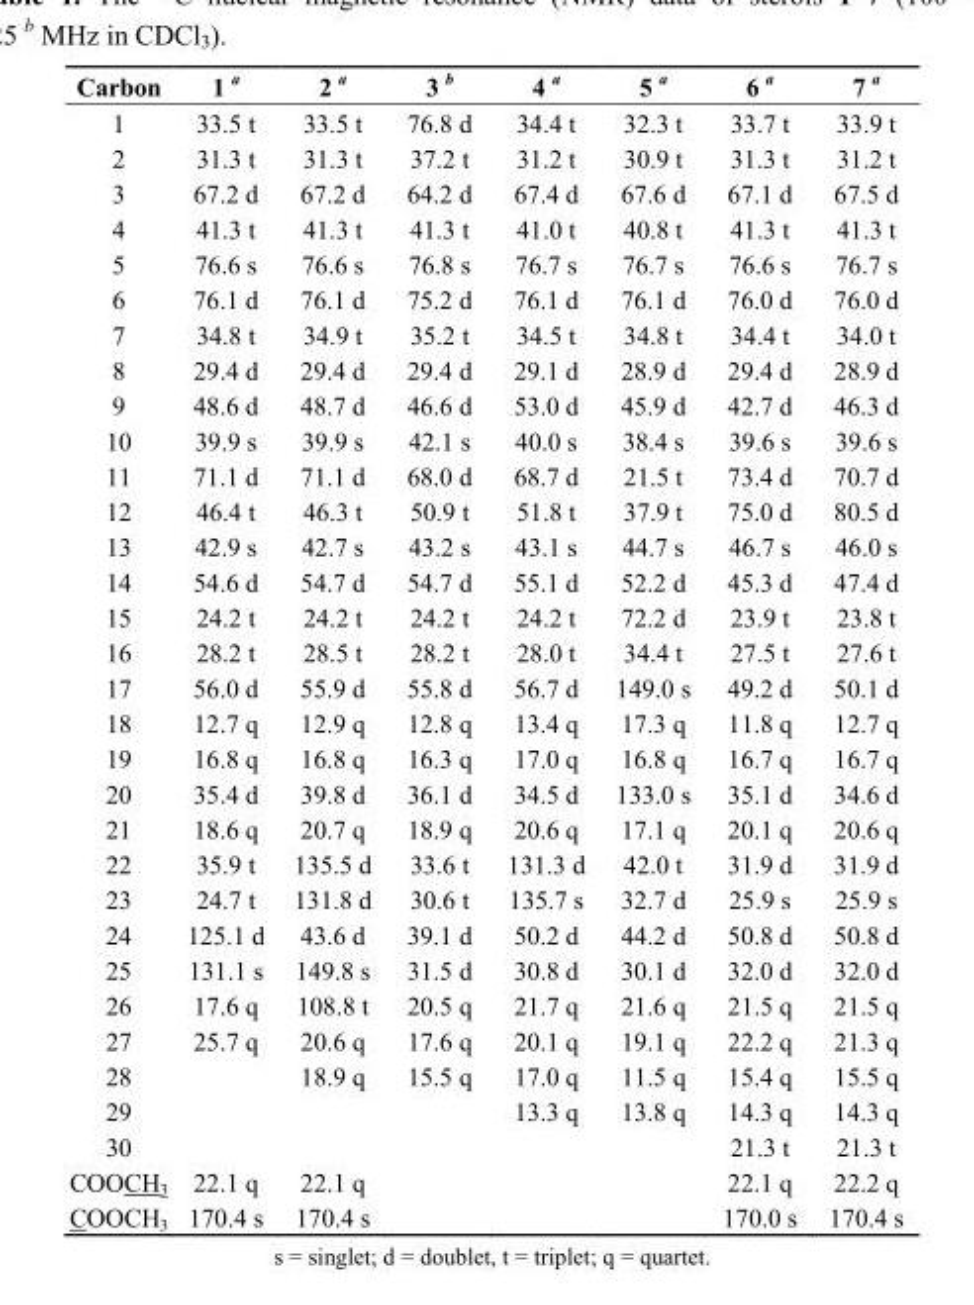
<table><thead><tr><td>Carbon</td><td>1 <sup>a</sup></td><td>2 <sup>a</sup></td><td>3 <sup>b</sup></td><td>4 <sup>a</sup></td><td>5 <sup>a</sup></td><td>6 <sup>a</sup></td><td>7 <sup>a</sup></td></tr></thead><tbody><tr><td>1</td><td>33.5 t</td><td>33.5 t</td><td>76.8 d</td><td>34.4 t</td><td>32.3 t</td><td>33.7 t</td><td>33.9 t</td></tr><tr><td>2</td><td>31.3 t</td><td>31.3 t</td><td>37.2 t</td><td>31.2 t</td><td>30.9 t</td><td>31.3 t</td><td>31.2 t</td></tr><tr><td>3</td><td>67.2 d</td><td>67.2 d</td><td>64.2 d</td><td>67.4 d</td><td>67.6 d</td><td>67.1 d</td><td>67.5 d</td></tr><tr><td>4</td><td>41.3 t</td><td>41.3 t</td><td>41.3 t</td><td>41.0 t</td><td>40.8 t</td><td>41.3 t</td><td>41.3 t</td></tr><tr><td>5</td><td>76.6 s</td><td>76.6 s</td><td>76.8 s</td><td>76.7 s</td><td>76.7 s</td><td>76.6 s</td><td>76.7 s</td></tr><tr><td>6</td><td>76.1 d</td><td>76.1 d</td><td>75.2 d</td><td>76.1 d</td><td>76.1 d</td><td>76.0 d</td><td>76.0 d</td></tr><tr><td>7</td><td>34.8 t</td><td>34.9 t</td><td>35.2 t</td><td>34.5 t</td><td>34.8 t</td><td>34.4 t</td><td>34.0 t</td></tr><tr><td>8</td><td>29.4 d</td><td>29.4 d</td><td>29.4 d</td><td>29.1 d</td><td>28.9 d</td><td>29.4 d</td><td>28.9 d</td></tr><tr><td>9</td><td>48.6 d</td><td>48.7 d</td><td>46.6 d</td><td>53.0 d</td><td>45.9 d</td><td>42.7 d</td><td>46.3 d</td></tr><tr><td>10</td><td>39.9 s</td><td>39.9 s</td><td>42.1 s</td><td>40.0 s</td><td>38.4 s</td><td>39.6 s</td><td>39.6 s</td></tr><tr><td>11</td><td>71.1 d</td><td>71.1 d</td><td>68.0 d</td><td>68.7 d</td><td>21.5 t</td><td>73.4 d</td><td>70.7 d</td></tr><tr><td>12</td><td>46.4 t</td><td>46.3 t</td><td>50.9 t</td><td>51.8 t</td><td>37.9 t</td><td>75.0 d</td><td>80.5 d</td></tr><tr><td>13</td><td>42.9 s</td><td>42.7 s</td><td>43.2 s</td><td>43.1 s</td><td>44.7 s</td><td>46.7 s</td><td>46.0 s</td></tr><tr><td>14</td><td>54.6 d</td><td>54.7 d</td><td>54.7 d</td><td>55.1 d</td><td>52.2 d</td><td>45.3 d</td><td>47.4 d</td></tr><tr><td>15</td><td>24.2 t</td><td>24.2 t</td><td>24.2 t</td><td>24.2 t</td><td>72.2 d</td><td>23.9 t</td><td>23.8 t</td></tr><tr><td>16</td><td>28.2 t</td><td>28.5 t</td><td>28.2 t</td><td>28.0 t</td><td>34.4 t</td><td>27.5 t</td><td>27.6 t</td></tr><tr><td>17</td><td>56.0 d</td><td>55.9 d</td><td>55.8 d</td><td>56.7 d</td><td>149.0 s</td><td>49.2 d</td><td>50.1 d</td></tr><tr><td>18</td><td>12.7 q</td><td>12.9 q</td><td>12.8 q</td><td>13.4 q</td><td>17.3 q</td><td>11.8 q</td><td>12.7 q</td></tr><tr><td>19</td><td>16.8 q</td><td>16.8 q</td><td>16.3 q</td><td>17.0 q</td><td>16.8 q</td><td>16.7 q</td><td>16.7 q</td></tr><tr><td>20</td><td>35.4 d</td><td>39.8 d</td><td>36.1 d</td><td>34.5 d</td><td>133.0 s</td><td>35.1 d</td><td>34.6 d</td></tr><tr><td>21</td><td>18.6 q</td><td>20.7 q</td><td>18.9 q</td><td>20.6 q</td><td>17.1 q</td><td>20.1 q</td><td>20.6 q</td></tr><tr><td>22</td><td>35.9 t</td><td>135.5 d</td><td>33.6 t</td><td>131.3 d</td><td>42.0 t</td><td>31.9 d</td><td>31.9 d</td></tr><tr><td>23</td><td>24.7 t</td><td>131.8 d</td><td>30.6 t</td><td>135.7 s</td><td>32.7 d</td><td>25.9 s</td><td>25.9 s</td></tr><tr><td>24</td><td>125.1 d</td><td>43.6 d</td><td>39.1 d</td><td>50.2 d</td><td>44.2 d</td><td>50.8 d</td><td>50.8 d</td></tr><tr><td>25</td><td>131.1 s</td><td>149.8 s</td><td>31.5 d</td><td>30.8 d</td><td>30.1 d</td><td>32.0 d</td><td>32.0 d</td></tr><tr><td>26</td><td>17.6 q</td><td>108.8 t</td><td>20.5 q</td><td>21.7 q</td><td>21.6 q</td><td>21.5 q</td><td>21.5 q</td></tr><tr><td>27</td><td>25.7 q</td><td>20.6 q</td><td>17.6 q</td><td>20.1 q</td><td>19.1 q</td><td>22.2 q</td><td>21.3 q</td></tr><tr><td>28</td><td></td><td>18.9 q</td><td>15.5 q</td><td>17.0 q</td><td>11.5 q</td><td>15.4 q</td><td>15.5 q</td></tr><tr><td>29</td><td></td><td></td><td></td><td>13.3 q</td><td>13.8 q</td><td>14.3 q</td><td>14.3 q</td></tr><tr><td>30</td><td></td><td></td><td></td><td></td><td></td><td>21.3 t</td><td>21.3 t</td></tr><tr><td>COOCH<sub>3</sub></td><td>22.1 q</td><td>22.1 q</td><td></td><td></td><td></td><td>22.1 q</td><td>22.2 q</td></tr><tr><td>COOCH<sub>3</sub></td><td>170.4 s</td><td>170.4 s</td><td></td><td></td><td></td><td>170.0 s</td><td>170.4 s</td></tr></tbody></table>